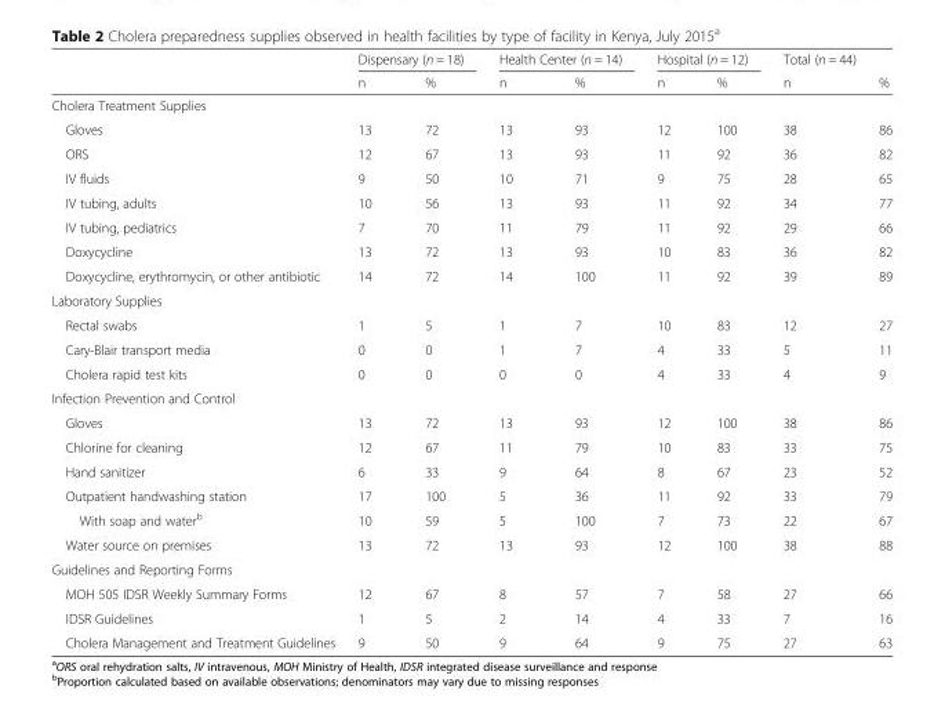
<table><thead><tr><td rowspan="2"></td><td colspan="2">Dispensary (n = 18)</td><td colspan="2">Health Center (n = 14)</td><td colspan="2">Hospital (n = 12)</td><td rowspan="2">Total (n = 44) n</td><td rowspan="2">%</td></tr><tr><td>n</td><td>%</td><td>n</td><td>%</td><td>n</td><td>%</td></tr></thead><tbody><tr><td colspan="9">Cholera Treatment Supplies</td></tr><tr><td>Gloves</td><td>13</td><td>72</td><td>13</td><td>93</td><td>12</td><td>100</td><td>38</td><td>86</td></tr><tr><td>ORS</td><td>12</td><td>67</td><td>13</td><td>93</td><td>11</td><td>92</td><td>36</td><td>82</td></tr><tr><td>IV fluids</td><td>9</td><td>50</td><td>10</td><td>71</td><td>9</td><td>75</td><td>28</td><td>65</td></tr><tr><td>IV tubing, adults</td><td>10</td><td>56</td><td>13</td><td>93</td><td>11</td><td>92</td><td>34</td><td>77</td></tr><tr><td>IV tubing, pediatrics</td><td>7</td><td>70</td><td>11</td><td>79</td><td>11</td><td>92</td><td>29</td><td>66</td></tr><tr><td>Doxycycline</td><td>13</td><td>72</td><td>13</td><td>93</td><td>10</td><td>83</td><td>36</td><td>82</td></tr><tr><td>Doxycycline, erythromycin, or other antibiotic</td><td>14</td><td>72</td><td>14</td><td>100</td><td>11</td><td>92</td><td>39</td><td>89</td></tr><tr><td colspan="9">Laboratory Supplies</td></tr><tr><td>Rectal swabs</td><td>1</td><td>5</td><td>1</td><td>7</td><td>10</td><td>83</td><td>12</td><td>27</td></tr><tr><td>Cary-Blair transport media</td><td>0</td><td>0</td><td>1</td><td>7</td><td>4</td><td>33</td><td>5</td><td>11</td></tr><tr><td>Cholera rapid test kits</td><td>0</td><td>0</td><td>0</td><td>0</td><td>4</td><td>33</td><td>4</td><td>9</td></tr><tr><td colspan="9">Infection Prevention and Control</td></tr><tr><td>Gloves</td><td>13</td><td>72</td><td>13</td><td>93</td><td>12</td><td>100</td><td>38</td><td>86</td></tr><tr><td>Chlorine for cleaning</td><td>12</td><td>67</td><td>11</td><td>79</td><td>10</td><td>83</td><td>33</td><td>75</td></tr><tr><td>Hand sanitizer</td><td>6</td><td>33</td><td>9</td><td>64</td><td>8</td><td>67</td><td>23</td><td>52</td></tr><tr><td>Outpatient handwashing station</td><td>17</td><td>100</td><td>5</td><td>36</td><td>11</td><td>92</td><td>33</td><td>79</td></tr><tr><td>With soap and water<sup>b</sup></td><td>10</td><td>59</td><td>5</td><td>100</td><td>7</td><td>73</td><td>22</td><td>67</td></tr><tr><td>Water source on premises</td><td>13</td><td>72</td><td>13</td><td>93</td><td>12</td><td>100</td><td>38</td><td>88</td></tr><tr><td colspan="9">Guidelines and Reporting Forms</td></tr><tr><td>MOH 505 IDSR Weekly Summary Forms</td><td>12</td><td>67</td><td>8</td><td>57</td><td>7</td><td>58</td><td>27</td><td>66</td></tr><tr><td>IDSR Guidelines</td><td>1</td><td>5</td><td>2</td><td>14</td><td>4</td><td>33</td><td>7</td><td>16</td></tr><tr><td>Cholera Management and Treatment Guidelines</td><td>9</td><td>50</td><td>9</td><td>64</td><td>9</td><td>75</td><td>27</td><td>63</td></tr></tbody></table>